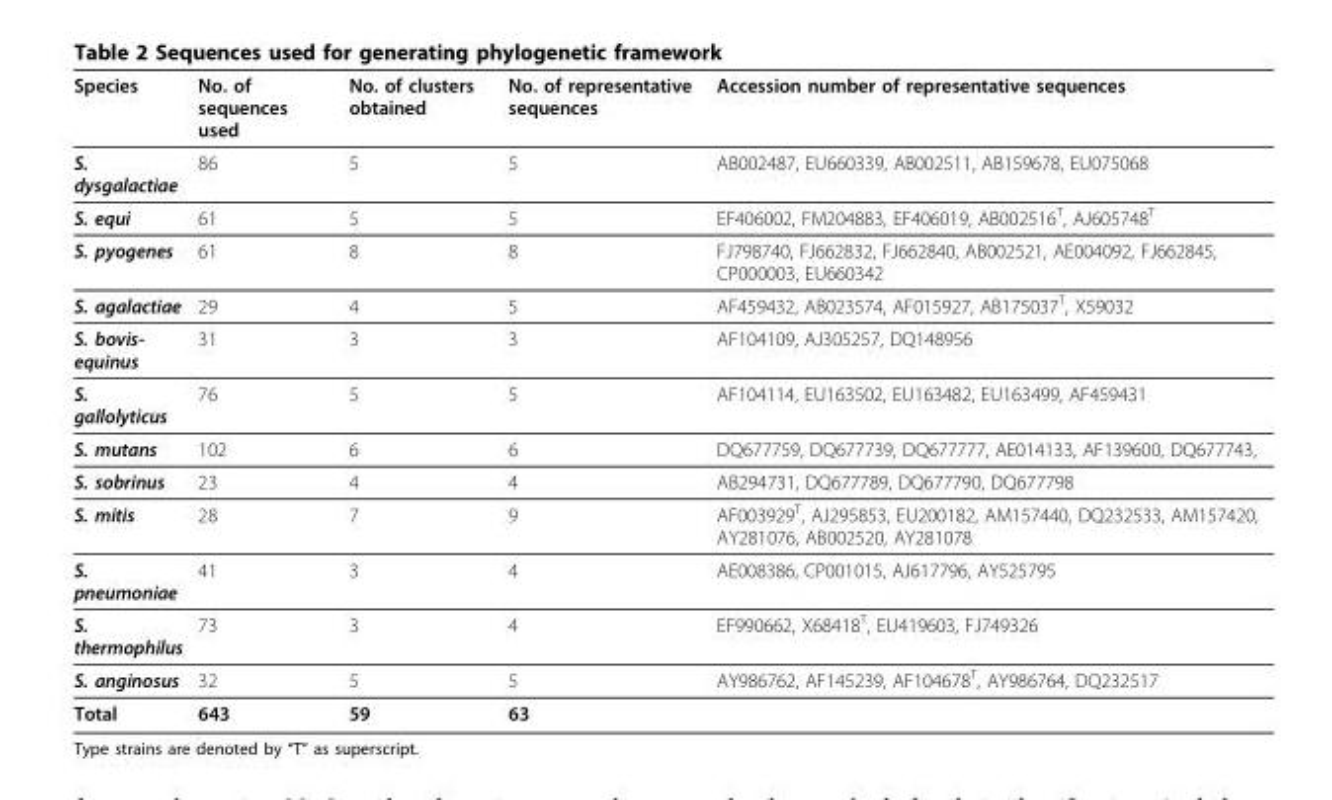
<table><thead><tr><td>Species</td><td>No. of sequences used</td><td>No. of clusters obtained</td><td>No. of representative sequences</td><td>Accession number of representative sequences</td></tr></thead><tbody><tr><td>S. dysgalactiae</td><td>86</td><td>5</td><td>5</td><td>AB002487, EU660339, AB002511, AB159678, EU075068</td></tr><tr><td>S. equi</td><td>61</td><td>5</td><td>5</td><td>EF406002, FM204883, EF406019, AB002516<sup>T</sup>, AJ605748<sup>T</sup></td></tr><tr><td>S. pyogenes</td><td>61</td><td>8</td><td>8</td><td>FJ798740, FJ662832, FJ662840, AB002521, AE004092, FJ662845, CP000003, EU660342</td></tr><tr><td>S. agalactiae</td><td>29</td><td>4</td><td>5</td><td>AF459432, AB023574, AF015927, AB175037<sup>T</sup>, X59032</td></tr><tr><td>S. bovis- equinus</td><td>31</td><td>3</td><td>3</td><td>AF104109, AJ305257, DQ148956</td></tr><tr><td>S. gallolyticus</td><td>76</td><td>5</td><td>5</td><td>AF104114, EU163502, EU163482, EU163499, AF459431</td></tr><tr><td>S. mutans</td><td>102</td><td>6</td><td>6</td><td>DQ677759, DQ677739, DQ677777, AE014133, AF139600, DQ677743,</td></tr><tr><td>S. sobrinus</td><td>23</td><td>4</td><td>4</td><td>AB294731, DQ677789, DQ677790, DQ677798</td></tr><tr><td>S. mitis</td><td>28</td><td>7</td><td>9</td><td>AF003929<sup>T</sup>, AJ295853, EU200182, AM157440, DQ232533, AM157420, AY281076, AB002520, AY281078</td></tr><tr><td>S. pneumoniae</td><td>41</td><td>3</td><td>4</td><td>AE008386, CP001015, AJ617796, AY525795</td></tr><tr><td>S. thermophilus</td><td>73</td><td>3</td><td>4</td><td>EF990662, X68418<sup>T</sup>, EU419603, FJ749326</td></tr><tr><td>S. anginosus</td><td>32</td><td>5</td><td>5</td><td>AY986762, AF145239, AF104678<sup>T</sup>, AY986764, DQ232517</td></tr><tr><td>Total</td><td>643</td><td>59</td><td>63</td><td></td></tr></tbody></table>